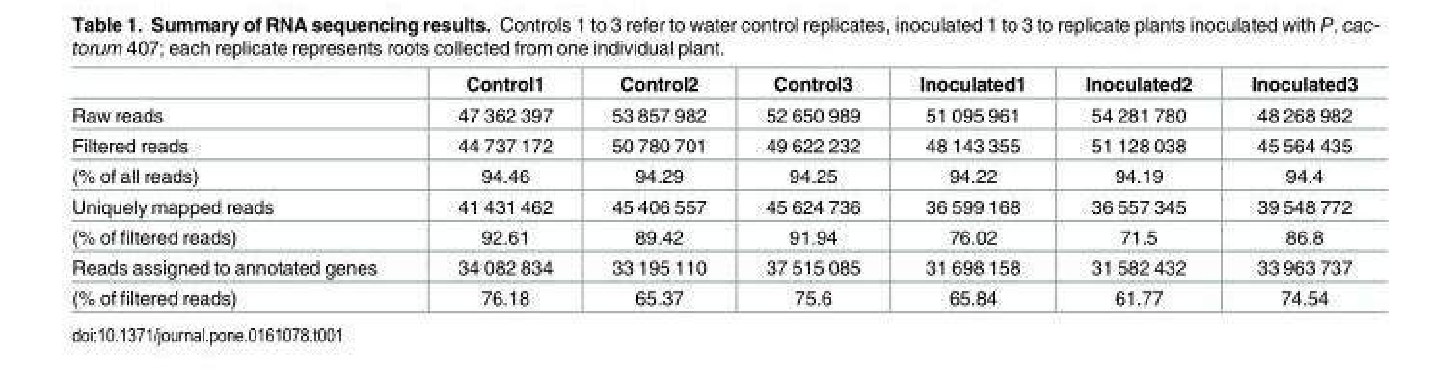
<table><thead><tr><td></td><td>Control1</td><td>Control2</td><td>Control3</td><td>Inoculated1</td><td>Inoculated2</td><td>Inoculated3</td></tr></thead><tbody><tr><td>Raw reads</td><td>47 362 397</td><td>53 857 982</td><td>52 650 989</td><td>51 095 961</td><td>54 281 780</td><td>48 268 982</td></tr><tr><td>Filtered reads</td><td>44 737 172</td><td>50 780 701</td><td>49 622 232</td><td>48 143 355</td><td>51 128 038</td><td>45 564 435</td></tr><tr><td>(% of all reads)</td><td>94.46</td><td>94.29</td><td>94.25</td><td>94.22</td><td>94.19</td><td>94.4</td></tr><tr><td>Uniquely mapped reads</td><td>41 431 462</td><td>45 406 557</td><td>45 624 736</td><td>36 599 168</td><td>36 557 345</td><td>39 548 772</td></tr><tr><td>(% of filtered reads)</td><td>92.61</td><td>89.42</td><td>91.94</td><td>76.02</td><td>71.5</td><td>86.8</td></tr><tr><td>Reads assigned to annotated genes</td><td>34 082 834</td><td>33 195 110</td><td>37 515 085</td><td>31 698 158</td><td>31 582 432</td><td>33 963 737</td></tr><tr><td>(% of filtered reads)</td><td>76.18</td><td>65.37</td><td>75.6</td><td>65.84</td><td>61.77</td><td>74.54</td></tr></tbody></table>